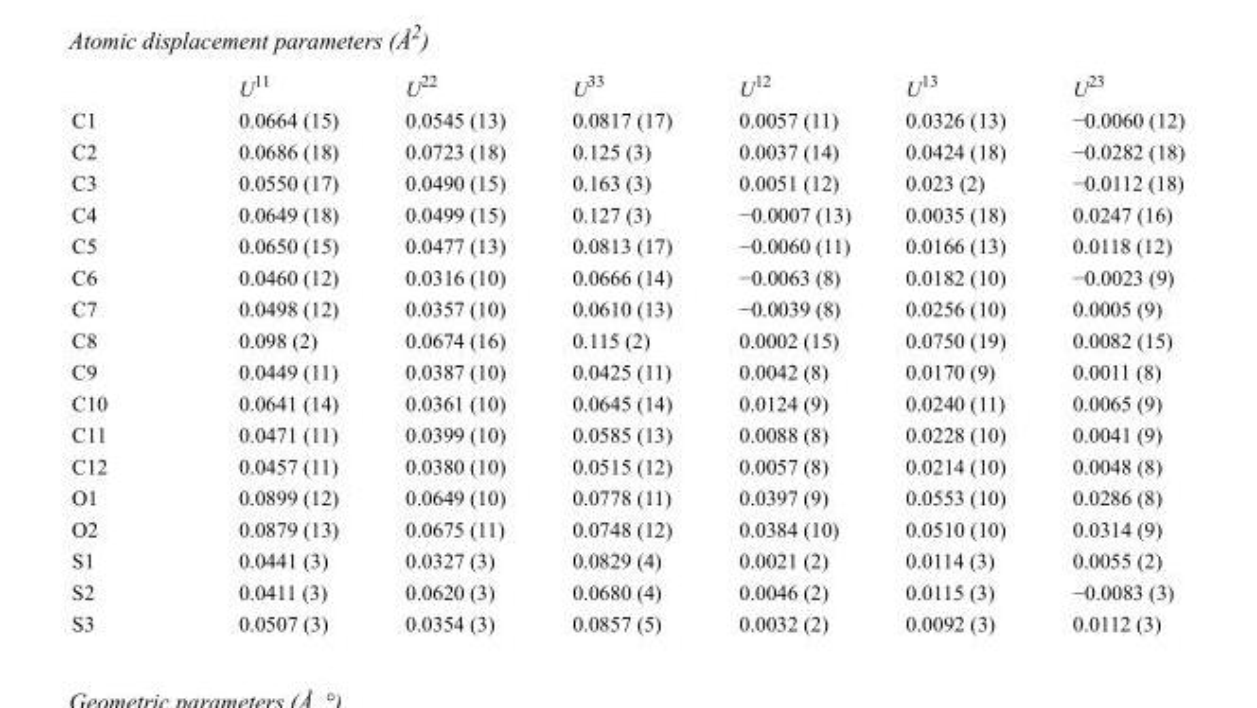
<table><thead><tr><td></td><td>U<sup>11</sup></td><td>U<sup>22</sup></td><td>U<sup>33</sup></td><td>U<sup>12</sup></td><td>U<sup>13</sup></td><td>U<sup>23</sup></td></tr></thead><tbody><tr><td>C1</td><td>0.0664 (15)</td><td>0.0545 (13)</td><td>0.0817 (17)</td><td>0.0057 (11)</td><td>0.0326 (13)</td><td>−0.0060 (12)</td></tr><tr><td>C2</td><td>0.0686 (18)</td><td>0.0723 (18)</td><td>0.125 (3)</td><td>0.0037 (14)</td><td>0.0424 (18)</td><td>−0.0282 (18)</td></tr><tr><td>C3</td><td>0.0550 (17)</td><td>0.0490 (15)</td><td>0.163 (3)</td><td>0.0051 (12)</td><td>0.023 (2)</td><td>−0.0112 (18)</td></tr><tr><td>C4</td><td>0.0649 (18)</td><td>0.0499 (15)</td><td>0.127 (3)</td><td>−0.0007 (13)</td><td>0.0035 (18)</td><td>0.0247 (16)</td></tr><tr><td>C5</td><td>0.0650 (15)</td><td>0.0477 (13)</td><td>0.0813 (17)</td><td>−0.0060 (11)</td><td>0.0166 (13)</td><td>0.0118 (12)</td></tr><tr><td>C6</td><td>0.0460 (12)</td><td>0.0316 (10)</td><td>0.0666 (14)</td><td>−0.0063 (8)</td><td>0.0182 (10)</td><td>−0.0023 (9)</td></tr><tr><td>C7</td><td>0.0498 (12)</td><td>0.0357 (10)</td><td>0.0610 (13)</td><td>−0.0039 (8)</td><td>0.0256 (10)</td><td>0.0005 (9)</td></tr><tr><td>C8</td><td>0.098 (2)</td><td>0.0674 (16)</td><td>0.115 (2)</td><td>0.0002 (15)</td><td>0.0750 (19)</td><td>0.0082 (15)</td></tr><tr><td>C9</td><td>0.0449 (11)</td><td>0.0387 (10)</td><td>0.0425 (11)</td><td>0.0042 (8)</td><td>0.0170 (9)</td><td>0.0011 (8)</td></tr><tr><td>C10</td><td>0.0641 (14)</td><td>0.0361 (10)</td><td>0.0645 (14)</td><td>0.0124 (9)</td><td>0.0240 (11)</td><td>0.0065 (9)</td></tr><tr><td>C11</td><td>0.0471 (11)</td><td>0.0399 (10)</td><td>0.0585 (13)</td><td>0.0088 (8)</td><td>0.0228 (10)</td><td>0.0041 (9)</td></tr><tr><td>C12</td><td>0.0457 (11)</td><td>0.0380 (10)</td><td>0.0515 (12)</td><td>0.0057 (8)</td><td>0.0214 (10)</td><td>0.0048 (8)</td></tr><tr><td>O1</td><td>0.0899 (12)</td><td>0.0649 (10)</td><td>0.0778 (11)</td><td>0.0397 (9)</td><td>0.0553 (10)</td><td>0.0286 (8)</td></tr><tr><td>O2</td><td>0.0879 (13)</td><td>0.0675 (11)</td><td>0.0748 (12)</td><td>0.0384 (10)</td><td>0.0510 (10)</td><td>0.0314 (9)</td></tr><tr><td>S1</td><td>0.0441 (3)</td><td>0.0327 (3)</td><td>0.0829 (4)</td><td>0.0021 (2)</td><td>0.0114 (3)</td><td>0.0055 (2)</td></tr><tr><td>S2</td><td>0.0411 (3)</td><td>0.0620 (3)</td><td>0.0680 (4)</td><td>0.0046 (2)</td><td>0.0115 (3)</td><td>−0.0083 (3)</td></tr><tr><td>S3</td><td>0.0507 (3)</td><td>0.0354 (3)</td><td>0.0857 (5)</td><td>0.0032 (2)</td><td>0.0092 (3)</td><td>0.0112 (3)</td></tr></tbody></table>